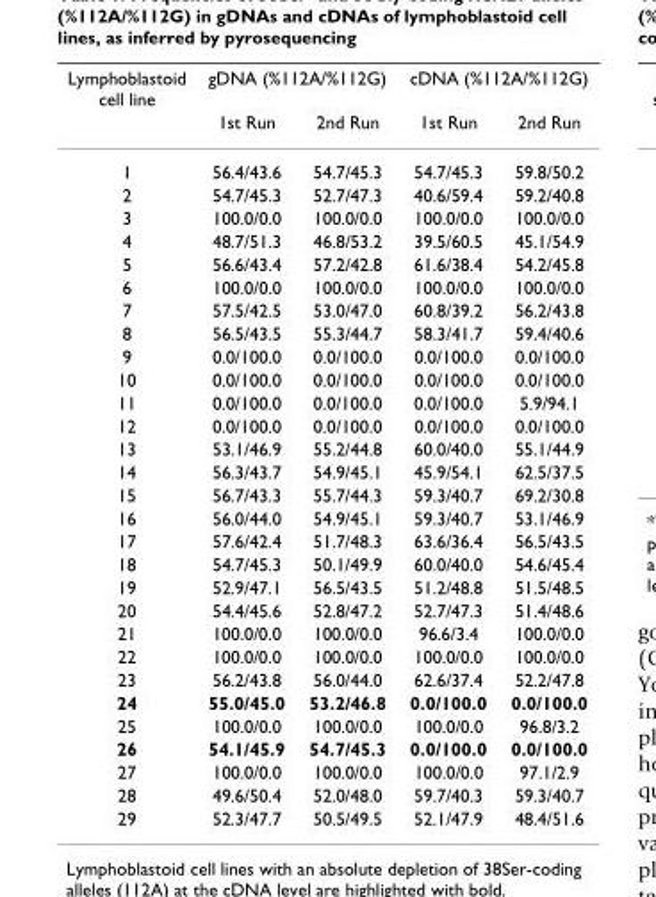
<table><thead><tr><td rowspan="2">Lymphoblastoid cell line</td><td colspan="2">gDNA (%112A/%112G)</td><td colspan="2">cDNA (%112A/%112G)</td></tr><tr><td>1st Run</td><td>2nd Run</td><td>1st Run</td><td>2nd Run</td></tr></thead><tbody><tr><td>1</td><td>56.4/43.6</td><td>54.7/45.3</td><td>54.7/45.3</td><td>59.8/50.2</td></tr><tr><td>2</td><td>54.7/45.3</td><td>52.7/47.3</td><td>40.6/59.4</td><td>59.2/40.8</td></tr><tr><td>3</td><td>100.0/0.0</td><td>100.0/0.0</td><td>100.0/0.0</td><td>100.0/0.0</td></tr><tr><td>4</td><td>48.7/51.3</td><td>46.8/53.2</td><td>39.5/60.5</td><td>45.1/54.9</td></tr><tr><td>5</td><td>56.6/43.4</td><td>57.2/42.8</td><td>61.6/38.4</td><td>54.2/45.8</td></tr><tr><td>6</td><td>100.0/0.0</td><td>100.0/0.0</td><td>100.0/0.0</td><td>100.0/0.0</td></tr><tr><td>7</td><td>57.5/42.5</td><td>53.0/47.0</td><td>60.8/39.2</td><td>56.2/43.8</td></tr><tr><td>8</td><td>56.5/43.5</td><td>55.3/44.7</td><td>58.3/41.7</td><td>59.4/40.6</td></tr><tr><td>9</td><td>0.0/100.0</td><td>0.0/100.0</td><td>0.0/100.0</td><td>0.0/100.0</td></tr><tr><td>10</td><td>0.0/100.0</td><td>0.0/100.0</td><td>0.0/100.0</td><td>0.0/100.0</td></tr><tr><td>11</td><td>0.0/100.0</td><td>0.0/100.0</td><td>0.0/100.0</td><td>5.9/94.1</td></tr><tr><td>12</td><td>0.0/100.0</td><td>0.0/100.0</td><td>0.0/100.0</td><td>0.0/100.0</td></tr><tr><td>13</td><td>53.1/46.9</td><td>55.2/44.8</td><td>60.0/40.0</td><td>55.1/44.9</td></tr><tr><td>14</td><td>56.3/43.7</td><td>54.9/45.1</td><td>45.9/54.1</td><td>62.5/37.5</td></tr><tr><td>15</td><td>56.7/43.3</td><td>55.7/44.3</td><td>59.3/40.7</td><td>69.2/30.8</td></tr><tr><td>16</td><td>56.0/44.0</td><td>54.9/45.1</td><td>59.3/40.7</td><td>53.1/46.9</td></tr><tr><td>17</td><td>57.6/42.4</td><td>51.7/48.3</td><td>63.6/36.4</td><td>56.5/43.5</td></tr><tr><td>18</td><td>54.7/45.3</td><td>50.1/49.9</td><td>60.0/40.0</td><td>54.6/45.4</td></tr><tr><td>19</td><td>52.9/47.1</td><td>56.5/43.5</td><td>51.2/48.8</td><td>51.5/48.5</td></tr><tr><td>20</td><td>54.4/45.6</td><td>52.8/47.2</td><td>52.7/47.3</td><td>51.4/48.6</td></tr><tr><td>21</td><td>100.0/0.0</td><td>100.0/0.0</td><td>96.6/3.4</td><td>100.0/0.0</td></tr><tr><td>22</td><td>100.0/0.0</td><td>100.0/0.0</td><td>100.0/0.0</td><td>100.0/0.0</td></tr><tr><td>23</td><td>56.2/43.8</td><td>56.0/44.0</td><td>62.6/37.4</td><td>52.2/47.8</td></tr><tr><td>24</td><td>55.0/45.0</td><td>53.2/46.8</td><td>0.0/100.0</td><td>0.0/100.0</td></tr><tr><td>25</td><td>100.0/0.0</td><td>100.0/0.0</td><td>100.0/0.0</td><td>96.8/3.2</td></tr><tr><td>26</td><td>54.1/45.9</td><td>54.7/45.3</td><td>0.0/100.0</td><td>0.0/100.0</td></tr><tr><td>27</td><td>100.0/0.0</td><td>100.0/0.0</td><td>100.0/0.0</td><td>97.1/2.9</td></tr><tr><td>28</td><td>49.6/50.4</td><td>52.0/48.0</td><td>59.7/40.3</td><td>59.3/40.7</td></tr><tr><td>29</td><td>52.3/47.7</td><td>50.5/49.5</td><td>52.1/47.9</td><td>48.4/51.6</td></tr></tbody></table>